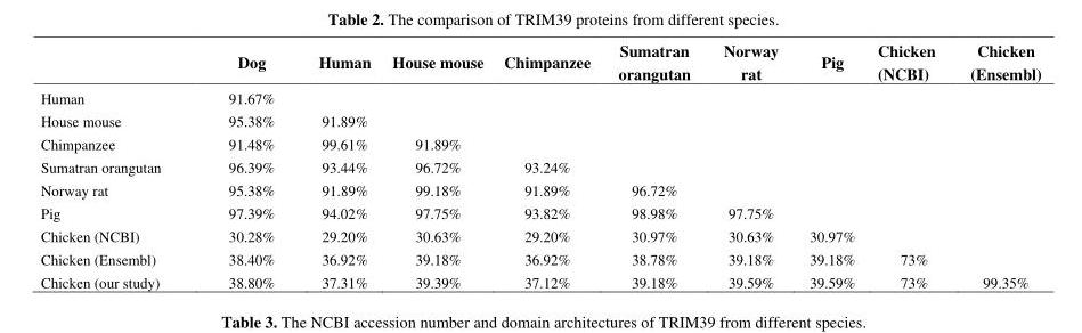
<table><thead><tr><td></td><td>Dog</td><td>Human</td><td>House mouse</td><td>Chimpanzee</td><td>Sumatran orangutan</td><td>Norway rat</td><td>Pig</td><td>Chicken (NCBI)</td><td>Chicken (Ensembl)</td></tr></thead><tbody><tr><td>Human</td><td>91.67%</td><td></td><td></td><td></td><td></td><td></td><td></td><td></td><td></td></tr><tr><td>House mouse</td><td>95.38%</td><td>91.89%</td><td></td><td></td><td></td><td></td><td></td><td></td><td></td></tr><tr><td>Chimpanzee</td><td>91.48%</td><td>99.61%</td><td>91.89%</td><td></td><td></td><td></td><td></td><td></td><td></td></tr><tr><td>Sumatran orangutan</td><td>96.39%</td><td>93.44%</td><td>96.72%</td><td>93.24%</td><td></td><td></td><td></td><td></td><td></td></tr><tr><td>Norway rat</td><td>95.38%</td><td>91.89%</td><td>99.18%</td><td>91.89%</td><td>96.72%</td><td></td><td></td><td></td><td></td></tr><tr><td>Pig</td><td>97.39%</td><td>94.02%</td><td>97.75%</td><td>93.82%</td><td>98.98%</td><td>97.75%</td><td></td><td></td><td></td></tr><tr><td>Chicken (NCBI)</td><td>30.28%</td><td>29.20%</td><td>30.63%</td><td>29.20%</td><td>30.97%</td><td>30.63%</td><td>30.97%</td><td></td><td></td></tr><tr><td>Chicken (Ensembl)</td><td>38.40%</td><td>36.92%</td><td>39.18%</td><td>36.92%</td><td>38.78%</td><td>39.18%</td><td>39.18%</td><td>73%</td><td></td></tr><tr><td>Chicken (our study)</td><td>38.80%</td><td>37.31%</td><td>39.39%</td><td>37.12%</td><td>39.18%</td><td>39.59%</td><td>39.59%</td><td>73%</td><td>99.35%</td></tr></tbody></table>